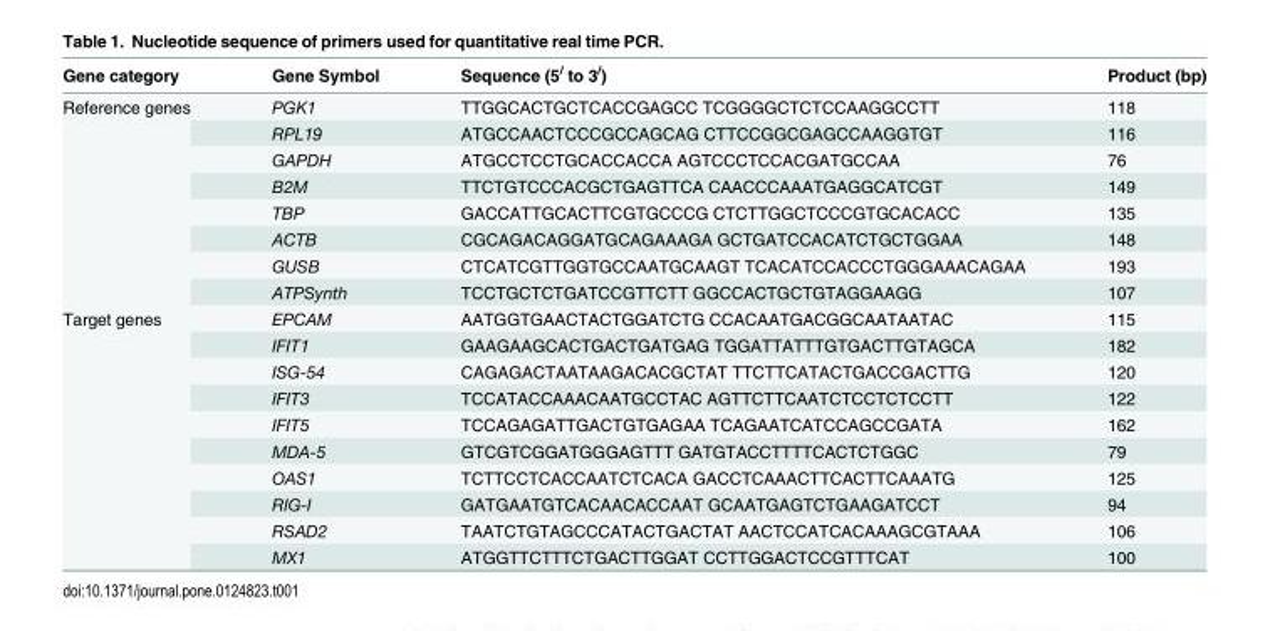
<table><thead><tr><td>Gene category</td><td>Gene Symbol</td><td>Sequence (5<sup>/</sup> to 3<sup>/</sup>)</td><td>Product (bp)</td></tr></thead><tbody><tr><td rowspan="8">Reference genes</td><td>PGK1</td><td>TTGGCACTGCTCACCGAGCC TCGGGGCTCTCCAAGGCCTT</td><td>118</td></tr><tr><td>RPL19</td><td>ATGCCAACTCCCGCCAGCAG CTTCCGGCGAGCCAAGGTGT</td><td>116</td></tr><tr><td>GAPDH</td><td>ATGCCTCCTGCACCACCA AGTCCCTCCACGATGCCAA</td><td>76</td></tr><tr><td>B2M</td><td>TTCTGTCCCACGCTGAGTTCA CAACCCAAATGAGGCATCGT</td><td>149</td></tr><tr><td>TBP</td><td>GACCATTGCACTTCGTGCCCG CTCTTGGCTCCCGTGCACACC</td><td>135</td></tr><tr><td>ACTB</td><td>CGCAGACAGGATGCAGAAAGA GCTGATCCACATCTGCTGGAA</td><td>148</td></tr><tr><td>GUSB</td><td>CTCATCGTTGGTGCCAATGCAAGT TCACATCCACCCTGGGAAACAGAA</td><td>193</td></tr><tr><td>ATPSynth</td><td>TCCTGCTCTGATCCGTTCTT GGCCACTGCTGTAGGAAGG</td><td>107</td></tr><tr><td rowspan="10">Target genes</td><td>EPCAM</td><td>AATGGTGAACTACTGGATCTG CCACAATGACGGCAATAATAC</td><td>115</td></tr><tr><td>IFIT1</td><td>GAAGAAGCACTGACTGATGAG TGGATTATTTGTGACTTGTAGCA</td><td>182</td></tr><tr><td>ISG-54</td><td>CAGAGACTAATAAGACACGCTAT TTCTTCATACTGACCGACTTG</td><td>120</td></tr><tr><td>IFIT3</td><td>TCCATACCAAACAATGCCTAC AGTTCTTCAATCTCCTCTCCTT</td><td>122</td></tr><tr><td>IFIT5</td><td>TCCAGAGATTGACTGTGAGAA TCAGAATCATCCAGCCGATA</td><td>162</td></tr><tr><td>MDA-5</td><td>GTCGTCGGATGGGAGTTT GATGTACCTTTTCACTCTGGC</td><td>79</td></tr><tr><td>OAS1</td><td>TCTTCCTCACCAATCTCACA GACCTCAAACTTCACTTCAAATG</td><td>125</td></tr><tr><td>RIG-I</td><td>GATGAATGTCACAACACCAAT GCAATGAGTCTGAAGATCCT</td><td>94</td></tr><tr><td>RSAD2</td><td>TAATCTGTAGCCCATACTGACTAT AACTCCATCACAAAGCGTAAA</td><td>106</td></tr><tr><td>MX1</td><td>ATGGTTCTTTCTGACTTGGAT CCTTGGACTCCGTTTCAT</td><td>100</td></tr></tbody></table>